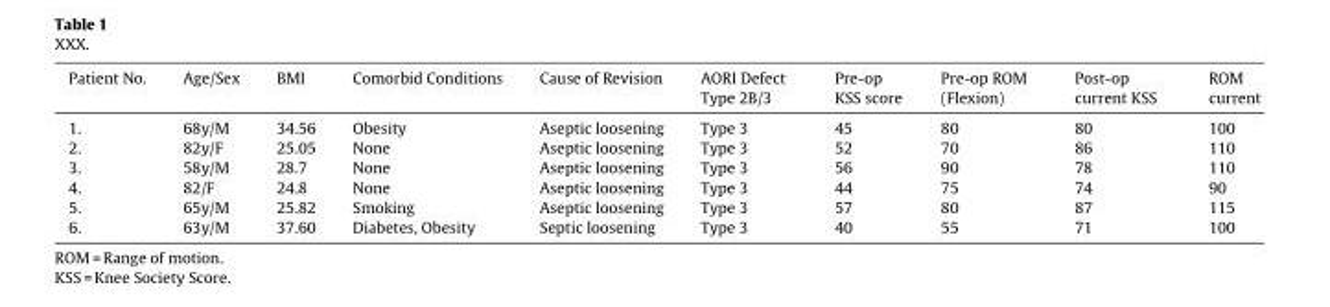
<table><thead><tr><td>Patient No.</td><td>Age/Sex</td><td>BMI</td><td>Comorbid Conditions</td><td>Cause of Revision</td><td>AORI Defect Type 2B/3</td><td>Pre-op KSS score</td><td>Pre-op ROM (Flexion)</td><td>Post-op current KSS</td><td>ROM current</td></tr></thead><tbody><tr><td>1.</td><td>68y/M</td><td>34.56</td><td>Obesity</td><td>Aseptic loosening</td><td>Type 3</td><td>45</td><td>80</td><td>80</td><td>100</td></tr><tr><td>2.</td><td>82y/F</td><td>25.05</td><td>None</td><td>Aseptic loosening</td><td>Type 3</td><td>52</td><td>70</td><td>86</td><td>110</td></tr><tr><td>3.</td><td>58y/M</td><td>28.7</td><td>None</td><td>Aseptic loosening</td><td>Type 3</td><td>56</td><td>90</td><td>78</td><td>110</td></tr><tr><td>4.</td><td>82/F</td><td>24.8</td><td>None</td><td>Aseptic loosening</td><td>Type 3</td><td>44</td><td>75</td><td>74</td><td>90</td></tr><tr><td>5.</td><td>65y/M</td><td>25.82</td><td>Smoking</td><td>Aseptic loosening</td><td>Type 3</td><td>57</td><td>80</td><td>87</td><td>115</td></tr><tr><td>6.</td><td>63y/M</td><td>37.60</td><td>Diabetes, Obesity</td><td>Septic loosening</td><td>Type 3</td><td>40</td><td>55</td><td>71</td><td>100</td></tr></tbody></table>